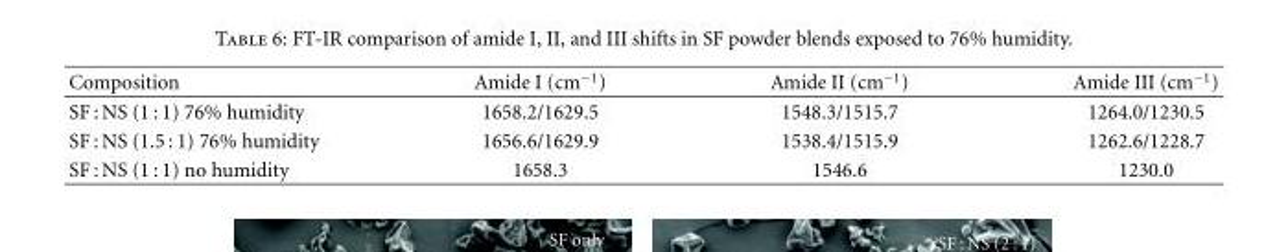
<table><thead><tr><td>Composition</td><td>Amide I (cm<sup>−1</sup>)</td><td>Amide II (cm<sup>−1</sup>)</td><td>Amide III (cm<sup>−1</sup>)</td></tr></thead><tbody><tr><td>SF : NS (1 : 1) 76% humidity</td><td>1658.2/1629.5</td><td>1548.3/1515.7</td><td>1264.0/1230.5</td></tr><tr><td>SF : NS (1.5 : 1) 76% humidity</td><td>1656.6/1629.9</td><td>1538.4/1515.9</td><td>1262.6/1228.7</td></tr><tr><td>SF : NS (1 : 1) no humidity</td><td>1658.3</td><td>1546.6</td><td>1230.0</td></tr></tbody></table>